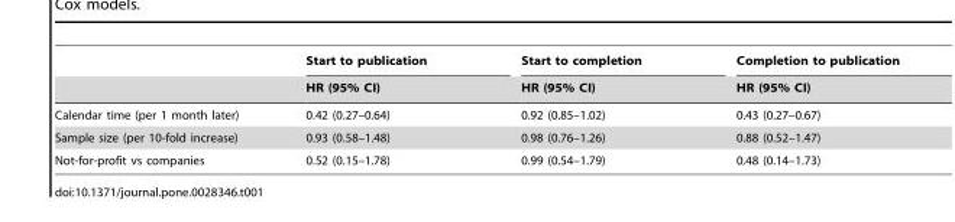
<table><thead><tr><td rowspan="2"></td><td rowspan="2">Start to publication HR (95% CI)</td><td rowspan="2">Start to completion HR (95% CI)</td><td rowspan="2">Completion to publication HR (95% CI)</td></tr><tr></tr></thead><tbody><tr><td>Calendar time (per 1 month later)</td><td>0.42 (0.27–0.64)</td><td>0.92 (0.85–1.02)</td><td>0.43 (0.27–0.67)</td></tr><tr><td>Sample size (per 10-fold increase)</td><td>0.93 (0.58–1.48)</td><td>0.98 (0.76–1.26)</td><td>0.88 (0.52–1.47)</td></tr><tr><td>Not-for-profit vs companies</td><td>0.52 (0.15–1.78)</td><td>0.99 (0.54–1.79)</td><td>0.48 (0.14–1.73)</td></tr></tbody></table>